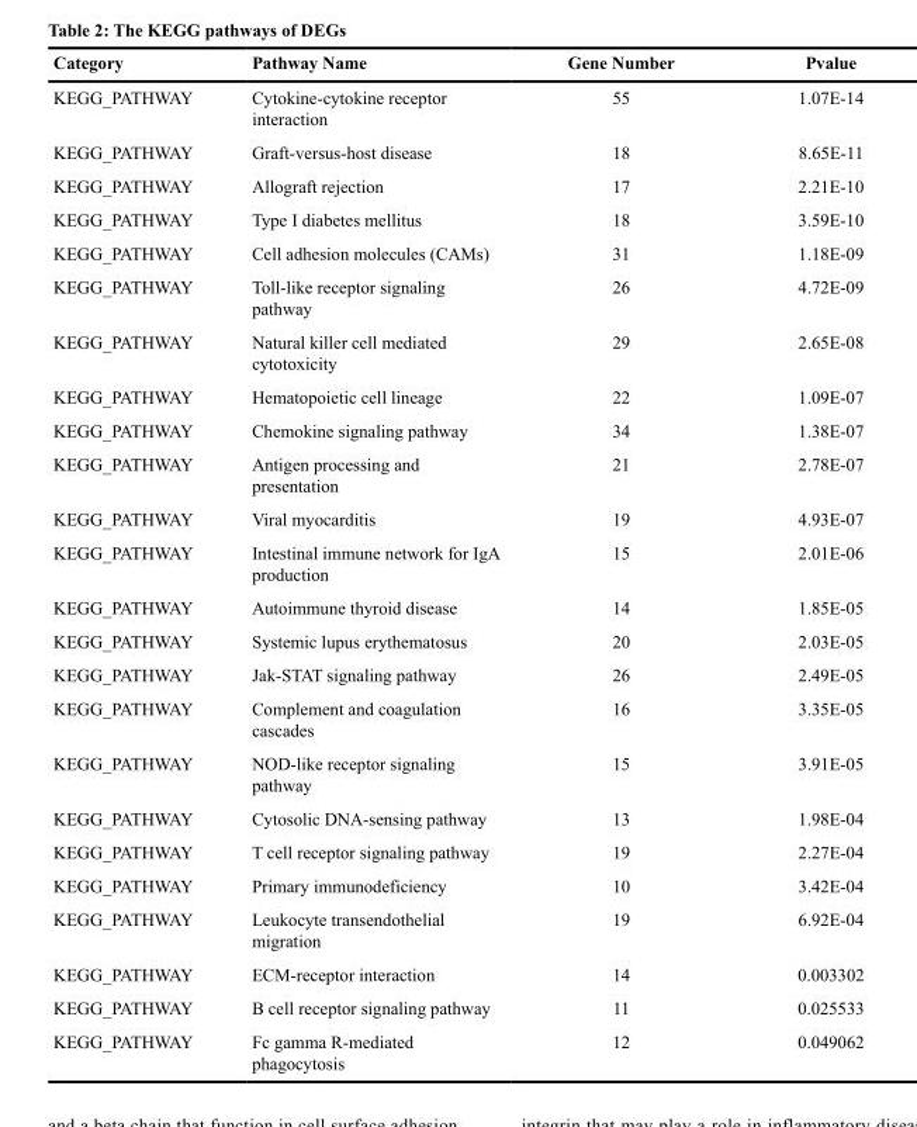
<table><thead><tr><td>Category</td><td>Pathway Name</td><td>Gene Number</td><td>Pvalue</td></tr></thead><tbody><tr><td>KEGG_PATHWAY</td><td>Cytokine-cytokine receptor interaction</td><td>55</td><td>1.07E-14</td></tr><tr><td>KEGG_PATHWAY</td><td>Graft-versus-host disease</td><td>18</td><td>8.65E-11</td></tr><tr><td>KEGG_PATHWAY</td><td>Allograft rejection</td><td>17</td><td>2.21E-10</td></tr><tr><td>KEGG_PATHWAY</td><td>Type I diabetes mellitus</td><td>18</td><td>3.59E-10</td></tr><tr><td>KEGG_PATHWAY</td><td>Cell adhesion molecules (CAMs)</td><td>31</td><td>1.18E-09</td></tr><tr><td>KEGG_PATHWAY</td><td>Toll-like receptor signaling pathway</td><td>26</td><td>4.72E-09</td></tr><tr><td>KEGG_PATHWAY</td><td>Natural killer cell mediated cytotoxicity</td><td>29</td><td>2.65E-08</td></tr><tr><td>KEGG_PATHWAY</td><td>Hematopoietic cell lineage</td><td>22</td><td>1.09E-07</td></tr><tr><td>KEGG_PATHWAY</td><td>Chemokine signaling pathway</td><td>34</td><td>1.38E-07</td></tr><tr><td>KEGG_PATHWAY</td><td>Antigen processing and presentation</td><td>21</td><td>2.78E-07</td></tr><tr><td>KEGG_PATHWAY</td><td>Viral myocarditis</td><td>19</td><td>4.93E-07</td></tr><tr><td>KEGG_PATHWAY</td><td>Intestinal immune network for IgA production</td><td>15</td><td>2.01E-06</td></tr><tr><td>KEGG_PATHWAY</td><td>Autoimmune thyroid disease</td><td>14</td><td>1.85E-05</td></tr><tr><td>KEGG_PATHWAY</td><td>Systemic lupus erythematosus</td><td>20</td><td>2.03E-05</td></tr><tr><td>KEGG_PATHWAY</td><td>Jak-STAT signaling pathway</td><td>26</td><td>2.49E-05</td></tr><tr><td>KEGG_PATHWAY</td><td>Complement and coagulation cascades</td><td>16</td><td>3.35E-05</td></tr><tr><td>KEGG_PATHWAY</td><td>NOD-like receptor signaling pathway</td><td>15</td><td>3.91E-05</td></tr><tr><td>KEGG_PATHWAY</td><td>Cytosolic DNA-sensing pathway</td><td>13</td><td>1.98E-04</td></tr><tr><td>KEGG_PATHWAY</td><td>T cell receptor signaling pathway</td><td>19</td><td>2.27E-04</td></tr><tr><td>KEGG_PATHWAY</td><td>Primary immunodeficiency</td><td>10</td><td>3.42E-04</td></tr><tr><td>KEGG_PATHWAY</td><td>Leukocyte transendothelial migration</td><td>19</td><td>6.92E-04</td></tr><tr><td>KEGG_PATHWAY</td><td>ECM-receptor interaction</td><td>14</td><td>0.003302</td></tr><tr><td>KEGG_PATHWAY</td><td>B cell receptor signaling pathway</td><td>11</td><td>0.025533</td></tr><tr><td>KEGG_PATHWAY</td><td>Fc gamma R-mediated phagocytosis</td><td>12</td><td>0.049062</td></tr></tbody></table>